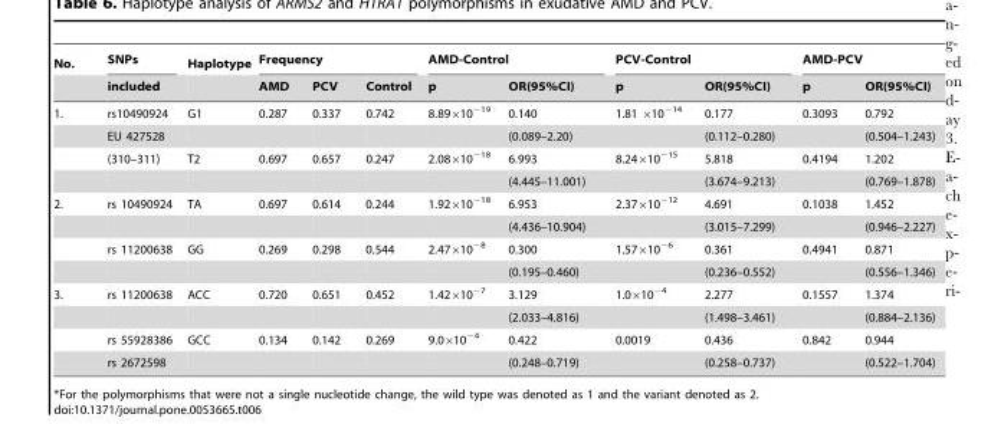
<table><thead><tr><td rowspan="2">No.</td><td rowspan="2">SNPs included</td><td rowspan="2">Haplotype</td><td colspan="3">Frequency</td><td colspan="2">AMD-Control</td><td colspan="2">PCV-Control</td><td colspan="2">AMD-PCV</td></tr><tr><td>AMD</td><td>PCV</td><td>Control</td><td>p</td><td>OR(95%CI)</td><td>p</td><td>OR(95%CI)</td><td>p</td><td>OR(95%CI)</td></tr></thead><tbody><tr><td rowspan="4">1.</td><td>rs10490924</td><td>G1</td><td>0.287</td><td>0.337</td><td>0.742</td><td>8.89×10<sup>−19</sup></td><td>0.140</td><td>1.81 ×10<sup>−14</sup></td><td>0.177</td><td>0.3093</td><td>0.792</td></tr><tr><td>EU 427528</td><td></td><td></td><td></td><td></td><td></td><td>(0.089–2.20)</td><td></td><td>(0.112–0.280)</td><td></td><td>(0.504–1.243)</td></tr><tr><td>(310–311)</td><td>T2</td><td>0.697</td><td>0.657</td><td>0.247</td><td>2.08×10<sup>−18</sup></td><td>6.993</td><td>8.24×10<sup>−15</sup></td><td>5.818</td><td>0.4194</td><td>1.202</td></tr><tr><td></td><td></td><td></td><td></td><td></td><td></td><td>(4.445–11.001)</td><td></td><td>(3.674–9.213)</td><td></td><td>(0.769–1.878)</td></tr><tr><td rowspan="4">2.</td><td>rs 10490924</td><td>TA</td><td>0.697</td><td>0.614</td><td>0.244</td><td>1.92×10<sup>−18</sup></td><td>6.953</td><td>2.37×10<sup>−12</sup></td><td>4.691</td><td>0.1038</td><td>1.452</td></tr><tr><td></td><td></td><td></td><td></td><td></td><td></td><td>(4.436–10.904)</td><td></td><td>(3.015–7.299)</td><td></td><td>(0.946–2.227)</td></tr><tr><td>rs 11200638</td><td>GG</td><td>0.269</td><td>0.298</td><td>0.544</td><td>2.47×10<sup>−8</sup></td><td>0.300</td><td>1.57×10<sup>−6</sup></td><td>0.361</td><td>0.4941</td><td>0.871</td></tr><tr><td></td><td></td><td></td><td></td><td></td><td></td><td>(0.195–0.460)</td><td></td><td>(0.236–0.552)</td><td></td><td>(0.556–1.346)</td></tr><tr><td rowspan="4">3.</td><td>rs 11200638</td><td>ACC</td><td>0.720</td><td>0.651</td><td>0.452</td><td>1.42×10<sup>−7</sup></td><td>3.129</td><td>1.0×10<sup>−4</sup></td><td>2.277</td><td>0.1557</td><td>1.374</td></tr><tr><td></td><td></td><td></td><td></td><td></td><td></td><td>(2.033–4.816)</td><td></td><td>(1.498–3.461)</td><td></td><td>(0.884–2.136)</td></tr><tr><td>rs 55928386</td><td>GCC</td><td>0.134</td><td>0.142</td><td>0.269</td><td>9.0×10<sup>−4</sup></td><td>0.422</td><td>0.0019</td><td>0.436</td><td>0.842</td><td>0.944</td></tr><tr><td>rs 2672598</td><td></td><td></td><td></td><td></td><td></td><td>(0.248–0.719)</td><td></td><td>(0.258–0.737)</td><td></td><td>(0.522–1.704)</td></tr></tbody></table>